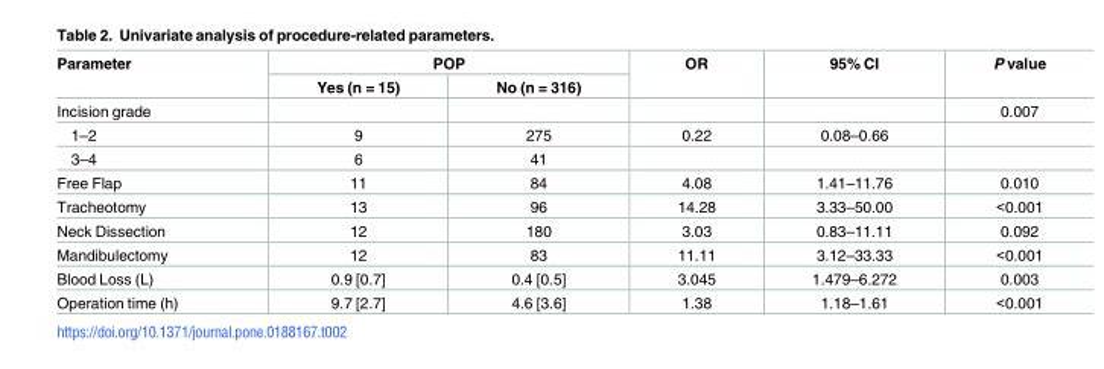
<table><thead><tr><td rowspan="2">Parameter</td><td colspan="2">POP</td><td rowspan="2">OR</td><td rowspan="2">95% CI</td><td rowspan="2">P value</td></tr><tr><td>Yes (n = 15)</td><td>No (n = 316)</td></tr></thead><tbody><tr><td>Incision grade</td><td></td><td></td><td></td><td></td><td>0.007</td></tr><tr><td>1–2</td><td>9</td><td>275</td><td>0.22</td><td>0.08–0.66</td><td></td></tr><tr><td>3–4</td><td>6</td><td>41</td><td></td><td></td><td></td></tr><tr><td>Free Flap</td><td>11</td><td>84</td><td>4.08</td><td>1.41–11.76</td><td>0.010</td></tr><tr><td>Tracheotomy</td><td>13</td><td>96</td><td>14.28</td><td>3.33–50.00</td><td>&lt;0.001</td></tr><tr><td>Neck Dissection</td><td>12</td><td>180</td><td>3.03</td><td>0.83–11.11</td><td>0.092</td></tr><tr><td>Mandibulectomy</td><td>12</td><td>83</td><td>11.11</td><td>3.12–33.33</td><td>&lt;0.001</td></tr><tr><td>Blood Loss (L)</td><td>0.9 [0.7]</td><td>0.4 [0.5]</td><td>3.045</td><td>1.479–6.272</td><td>0.003</td></tr><tr><td>Operation time (h)</td><td>9.7 [2.7]</td><td>4.6 [3.6]</td><td>1.38</td><td>1.18–1.61</td><td>&lt;0.001</td></tr></tbody></table>